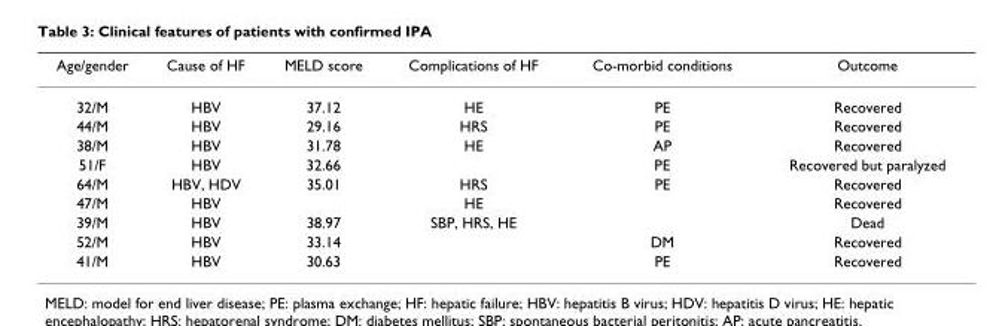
<table><thead><tr><td>Age/gender</td><td>Cause of HF</td><td>MELD score</td><td>Complications of HF</td><td>Co-morbid conditions</td><td>Outcome</td></tr></thead><tbody><tr><td>32/M</td><td>HBV</td><td>37.12</td><td>HE</td><td>PE</td><td>Recovered</td></tr><tr><td>44/M</td><td>HBV</td><td>29.16</td><td>HRS</td><td>PE</td><td>Recovered</td></tr><tr><td>38/M</td><td>HBV</td><td>31.78</td><td>HE</td><td>AP</td><td>Recovered</td></tr><tr><td>51/F</td><td>HBV</td><td>32.66</td><td></td><td>PE</td><td>Recovered but paralyzed</td></tr><tr><td>64/M</td><td>HBV, HDV</td><td>35.01</td><td>HRS</td><td>PE</td><td>Recovered</td></tr><tr><td>47/M</td><td>HBV</td><td></td><td>HE</td><td></td><td>Recovered</td></tr><tr><td>39/M</td><td>HBV</td><td>38.97</td><td>SBP, HRS, HE</td><td></td><td>Dead</td></tr><tr><td>52/M</td><td>HBV</td><td>33.14</td><td></td><td>DM</td><td>Recovered</td></tr><tr><td>41/M</td><td>HBV</td><td>30.63</td><td></td><td>PE</td><td>Recovered</td></tr></tbody></table>